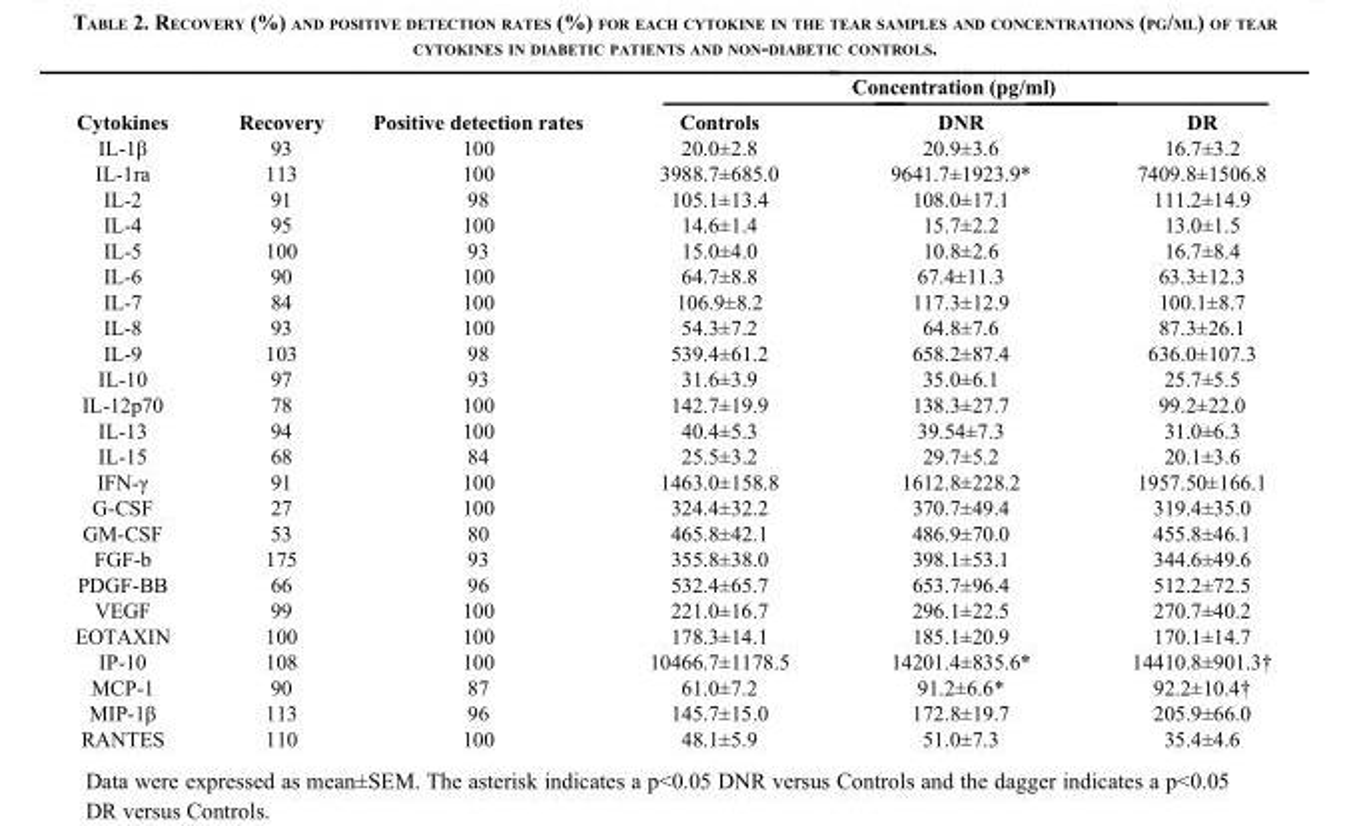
<table><thead><tr><td rowspan="2">Cytokines</td><td rowspan="2">Recovery</td><td rowspan="2">Positive detection rates</td><td colspan="3">Concentration (pg/ml)</td></tr><tr><td>Controls</td><td>DNR</td><td>DR</td></tr></thead><tbody><tr><td>IL-1β</td><td>93</td><td>100</td><td>20.0±2.8</td><td>20.9±3.6</td><td>16.7±3.2</td></tr><tr><td>IL-1ra</td><td>113</td><td>100</td><td>3988.7±685.0</td><td>9641.7±1923.9*</td><td>7409.8±1506.8</td></tr><tr><td>IL-2</td><td>91</td><td>98</td><td>105.1±13.4</td><td>108.0±17.1</td><td>111.2±14.9</td></tr><tr><td>IL-4</td><td>95</td><td>100</td><td>14.6±1.4</td><td>15.7±2.2</td><td>13.0±1.5</td></tr><tr><td>IL-5</td><td>100</td><td>93</td><td>15.0±4.0</td><td>10.8±2.6</td><td>16.7±8.4</td></tr><tr><td>IL-6</td><td>90</td><td>100</td><td>64.7±8.8</td><td>67.4±11.3</td><td>63.3±12.3</td></tr><tr><td>IL-7</td><td>84</td><td>100</td><td>106.9±8.2</td><td>117.3±12.9</td><td>100.1±8.7</td></tr><tr><td>IL-8</td><td>93</td><td>100</td><td>54.3±7.2</td><td>64.8±7.6</td><td>87.3±26.1</td></tr><tr><td>IL-9</td><td>103</td><td>98</td><td>539.4±61.2</td><td>658.2±87.4</td><td>636.0±107.3</td></tr><tr><td>IL-10</td><td>97</td><td>93</td><td>31.6±3.9</td><td>35.0±6.1</td><td>25.7±5.5</td></tr><tr><td>IL-12p70</td><td>78</td><td>100</td><td>142.7±19.9</td><td>138.3±27.7</td><td>99.2±22.0</td></tr><tr><td>IL-13</td><td>94</td><td>100</td><td>40.4±5.3</td><td>39.54±7.3</td><td>31.0±6.3</td></tr><tr><td>IL-15</td><td>68</td><td>84</td><td>25.5±3.2</td><td>29.7±5.2</td><td>20.1±3.6</td></tr><tr><td>IFN-γ</td><td>91</td><td>100</td><td>1463.0±158.8</td><td>1612.8±228.2</td><td>1957.50±166.1</td></tr><tr><td>G-CSF</td><td>27</td><td>100</td><td>324.4±32.2</td><td>370.7±49.4</td><td>319.4±35.0</td></tr><tr><td>GM-CSF</td><td>53</td><td>80</td><td>465.8±42.1</td><td>486.9±70.0</td><td>455.8±46.1</td></tr><tr><td>FGF-b</td><td>175</td><td>93</td><td>355.8±38.0</td><td>398.1±53.1</td><td>344.6±49.6</td></tr><tr><td>PDGF-BB</td><td>66</td><td>96</td><td>532.4±65.7</td><td>653.7±96.4</td><td>512.2±72.5</td></tr><tr><td>VEGF</td><td>99</td><td>100</td><td>221.0±16.7</td><td>296.1±22.5</td><td>270.7±40.2</td></tr><tr><td>EOTAXIN</td><td>100</td><td>100</td><td>178.3±14.1</td><td>185.1±20.9</td><td>170.1±14.7</td></tr><tr><td>IP-10</td><td>108</td><td>100</td><td>10466.7±1178.5</td><td>14201.4±835.6*</td><td>14410.8±901.3†</td></tr><tr><td>MCP-1</td><td>90</td><td>87</td><td>61.0±7.2</td><td>91.2±6.6*</td><td>92.2±10.4†</td></tr><tr><td>MIP-1β</td><td>113</td><td>96</td><td>145.7±15.0</td><td>172.8±19.7</td><td>205.9±66.0</td></tr><tr><td>RANTES</td><td>110</td><td>100</td><td>48.1±5.9</td><td>51.0±7.3</td><td>35.4±4.6</td></tr></tbody></table>